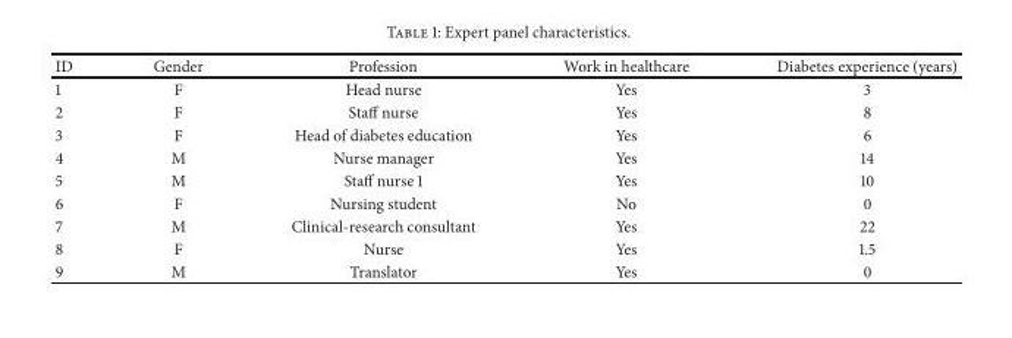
<table><thead><tr><td>ID</td><td>Gender</td><td>Profession</td><td>Work in healthcare</td><td>Diabetes experience (years)</td></tr></thead><tbody><tr><td>1</td><td>F</td><td>Head nurse</td><td>Yes</td><td>3</td></tr><tr><td>2</td><td>F</td><td>Staff nurse</td><td>Yes</td><td>8</td></tr><tr><td>3</td><td>F</td><td>Head of diabetes education</td><td>Yes</td><td>6</td></tr><tr><td>4</td><td>M</td><td>Nurse manager</td><td>Yes</td><td>14</td></tr><tr><td>5</td><td>M</td><td>Staff nurse 1</td><td>Yes</td><td>10</td></tr><tr><td>6</td><td>F</td><td>Nursing student</td><td>No</td><td>0</td></tr><tr><td>7</td><td>M</td><td>Clinical-research consultant</td><td>Yes</td><td>22</td></tr><tr><td>8</td><td>F</td><td>Nurse</td><td>Yes</td><td>1.5</td></tr><tr><td>9</td><td>M</td><td>Translator</td><td>Yes</td><td>0</td></tr></tbody></table>